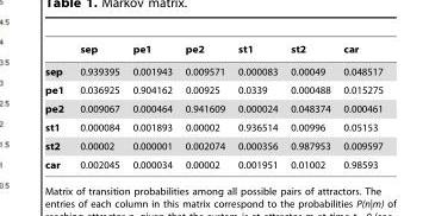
<table><thead><tr><td></td><td>sep</td><td>pe1</td><td>pe2</td><td>st1</td><td>st2</td><td>car</td></tr></thead><tbody><tr><td>sep</td><td>0.939395</td><td>0.001943</td><td>0.009571</td><td>0.000083</td><td>0.00049</td><td>0.048517</td></tr><tr><td>pe1</td><td>0.036925</td><td>0.904162</td><td>0.00925</td><td>0.0339</td><td>0.000488</td><td>0.015275</td></tr><tr><td>pe2</td><td>0.009067</td><td>0.000464</td><td>0.941609</td><td>0.000024</td><td>0.048374</td><td>0.000461</td></tr><tr><td>st1</td><td>0.000084</td><td>0.001893</td><td>0.00002</td><td>0.936514</td><td>0.00996</td><td>0.05153</td></tr><tr><td>st2</td><td>0.00002</td><td>0.000001</td><td>0.002074</td><td>0.000356</td><td>0.987953</td><td>0.009597</td></tr><tr><td>car</td><td>0.002045</td><td>0.000034</td><td>0.00002</td><td>0.001951</td><td>0.01002</td><td>0.98593</td></tr></tbody></table>